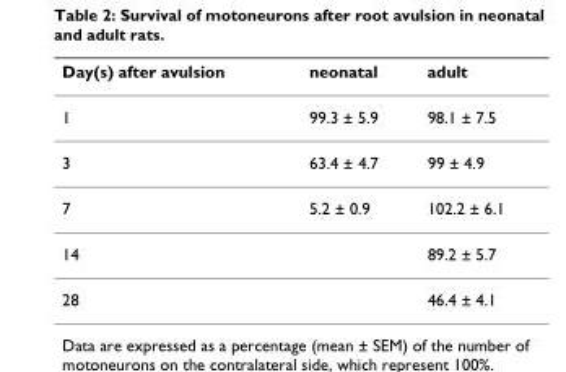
<table><thead><tr><td>Day(s) after avulsion</td><td>neonatal</td><td>adult</td></tr></thead><tbody><tr><td>1</td><td>99.3 ± 5.9</td><td>98.1 ± 7.5</td></tr><tr><td>3</td><td>63.4 ± 4.7</td><td>99 ± 4.9</td></tr><tr><td>7</td><td>5.2 ± 0.9</td><td>102.2 ± 6.1</td></tr><tr><td>14</td><td></td><td>89.2 ± 5.7</td></tr><tr><td>28</td><td></td><td>46.4 ± 4.1</td></tr></tbody></table>